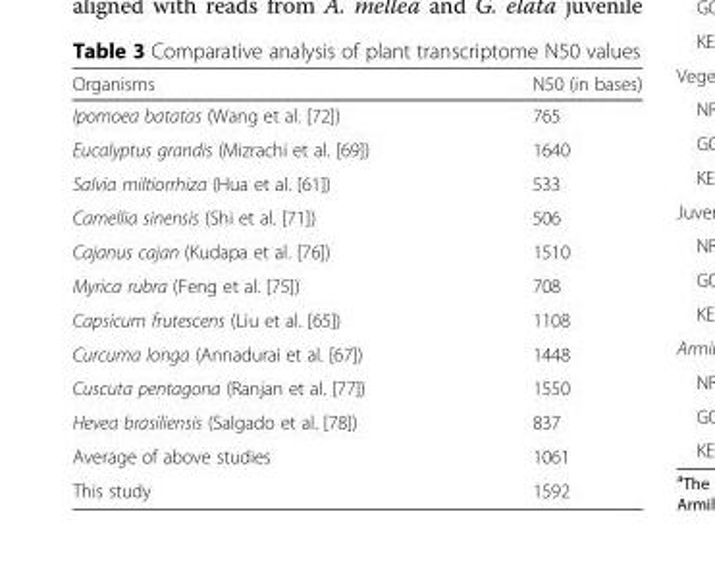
<table><thead><tr><td>Organisms</td><td>N50 (in bases)</td></tr></thead><tbody><tr><td>Ipomoea batatas (Wang et al. [72])</td><td>765</td></tr><tr><td>Eucalyptus grandis (Mizrachi et al. [69])</td><td>1640</td></tr><tr><td>Salvia miltiorrhiza (Hua et al. [61])</td><td>533</td></tr><tr><td>Camellia sinensis (Shi et al. [71])</td><td>506</td></tr><tr><td>Cajanus cajan (Kudapa et al. [76])</td><td>1510</td></tr><tr><td>Myrica rubra (Feng et al. [75])</td><td>708</td></tr><tr><td>Capsicum frutescens (Liu et al. [65])</td><td>1108</td></tr><tr><td>Curcuma longa (Annadurai et al. [67])</td><td>1448</td></tr><tr><td>Cuscuta pentagona (Ranjan et al. [77])</td><td>1550</td></tr><tr><td>Hevea brasiliensis (Salgado et al. [78])</td><td>837</td></tr><tr><td>Average of above studies</td><td>1061</td></tr><tr><td>This study</td><td>1592</td></tr></tbody></table>